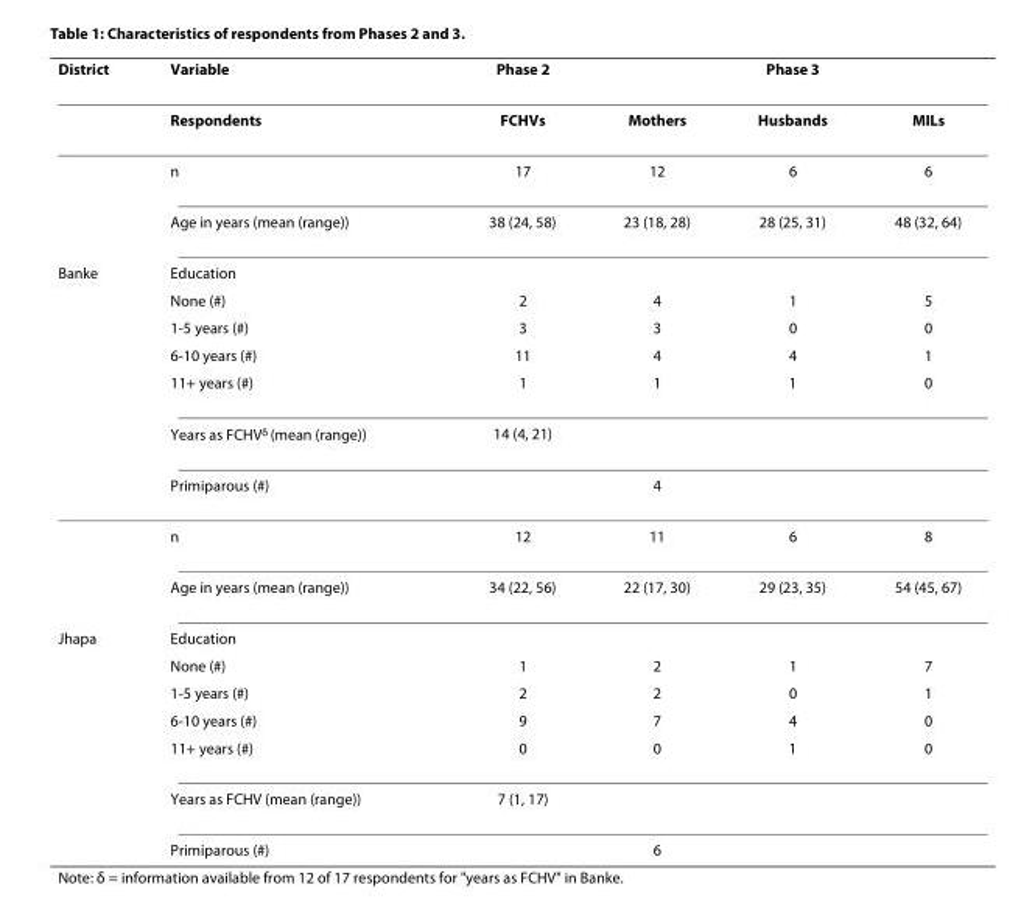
<table><thead><tr><td rowspan="2">District</td><td rowspan="2">Variable Respondents</td><td rowspan="2">Phase 2 FCHVs</td><td colspan="3">Phase 3</td></tr><tr><td>Mothers</td><td>Husbands</td><td>MILs</td></tr></thead><tbody><tr><td></td><td>n</td><td>17</td><td>12</td><td>6</td><td>6</td></tr><tr><td></td><td>Age in years (mean (range))</td><td>38 (24, 58)</td><td>23 (18, 28)</td><td>28 (25, 31)</td><td>48 (32, 64)</td></tr><tr><td rowspan="9">Banke</td><td>Education</td><td></td><td></td><td></td><td></td></tr><tr><td>None (#)</td><td>2</td><td>4</td><td>1</td><td>5</td></tr><tr><td>1-5 years (#)</td><td>3</td><td>3</td><td>0</td><td>0</td></tr><tr><td>6-10 years (#)</td><td>11</td><td>4</td><td>4</td><td>1</td></tr><tr><td>11+ years (#)</td><td>1</td><td>1</td><td>1</td><td>0</td></tr><tr><td>Years as FCHV<sup>δ</sup> (mean (range))</td><td>14 (4, 21)</td><td></td><td></td><td></td></tr><tr><td>Primiparous (#)</td><td></td><td>4</td><td></td><td></td></tr><tr><td>n</td><td>12</td><td>11</td><td>6</td><td>8</td></tr><tr><td>Age in years (mean (range))</td><td>34 (22, 56)</td><td>22 (17, 30)</td><td>29 (23, 35)</td><td>54 (45, 67)</td></tr><tr><td rowspan="7">Jhapa</td><td>Education</td><td></td><td></td><td></td><td></td></tr><tr><td>None (#)</td><td>1</td><td>2</td><td>1</td><td>7</td></tr><tr><td>1-5 years (#)</td><td>2</td><td>2</td><td>0</td><td>1</td></tr><tr><td>6-10 years (#)</td><td>9</td><td>7</td><td>4</td><td>0</td></tr><tr><td>11+ years (#)</td><td>0</td><td>0</td><td>1</td><td>0</td></tr><tr><td>Years as FCHV (mean (range))</td><td>7 (1, 17)</td><td></td><td></td><td></td></tr><tr><td>Primiparous (#)</td><td></td><td>6</td><td></td><td></td></tr></tbody></table>